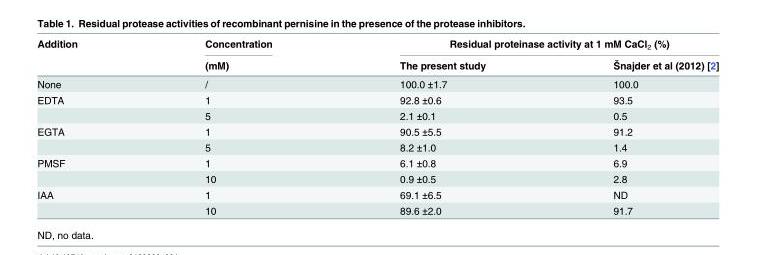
<table><thead><tr><td rowspan="2">Addition</td><td rowspan="2">Concentration (mM)</td><td colspan="2">Residual proteinase activity at 1 mM CaCl<sub>2</sub> (%)</td></tr><tr><td>The present study</td><td>Šnajder et al (2012) [2]</td></tr></thead><tbody><tr><td>None</td><td>/</td><td>100.0 ±1.7</td><td>100.0</td></tr><tr><td rowspan="2">EDTA</td><td>1</td><td>92.8 ±0.6</td><td>93.5</td></tr><tr><td>5</td><td>2.1 ±0.1</td><td>0.5</td></tr><tr><td rowspan="2">EGTA</td><td>1</td><td>90.5 ±5.5</td><td>91.2</td></tr><tr><td>5</td><td>8.2 ±1.0</td><td>1.4</td></tr><tr><td rowspan="2">PMSF</td><td>1</td><td>6.1 ±0.8</td><td>6.9</td></tr><tr><td>10</td><td>0.9 ±0.5</td><td>2.8</td></tr><tr><td rowspan="2">IAA</td><td>1</td><td>69.1 ±6.5</td><td>ND</td></tr><tr><td>10</td><td>89.6 ±2.0</td><td>91.7</td></tr></tbody></table>